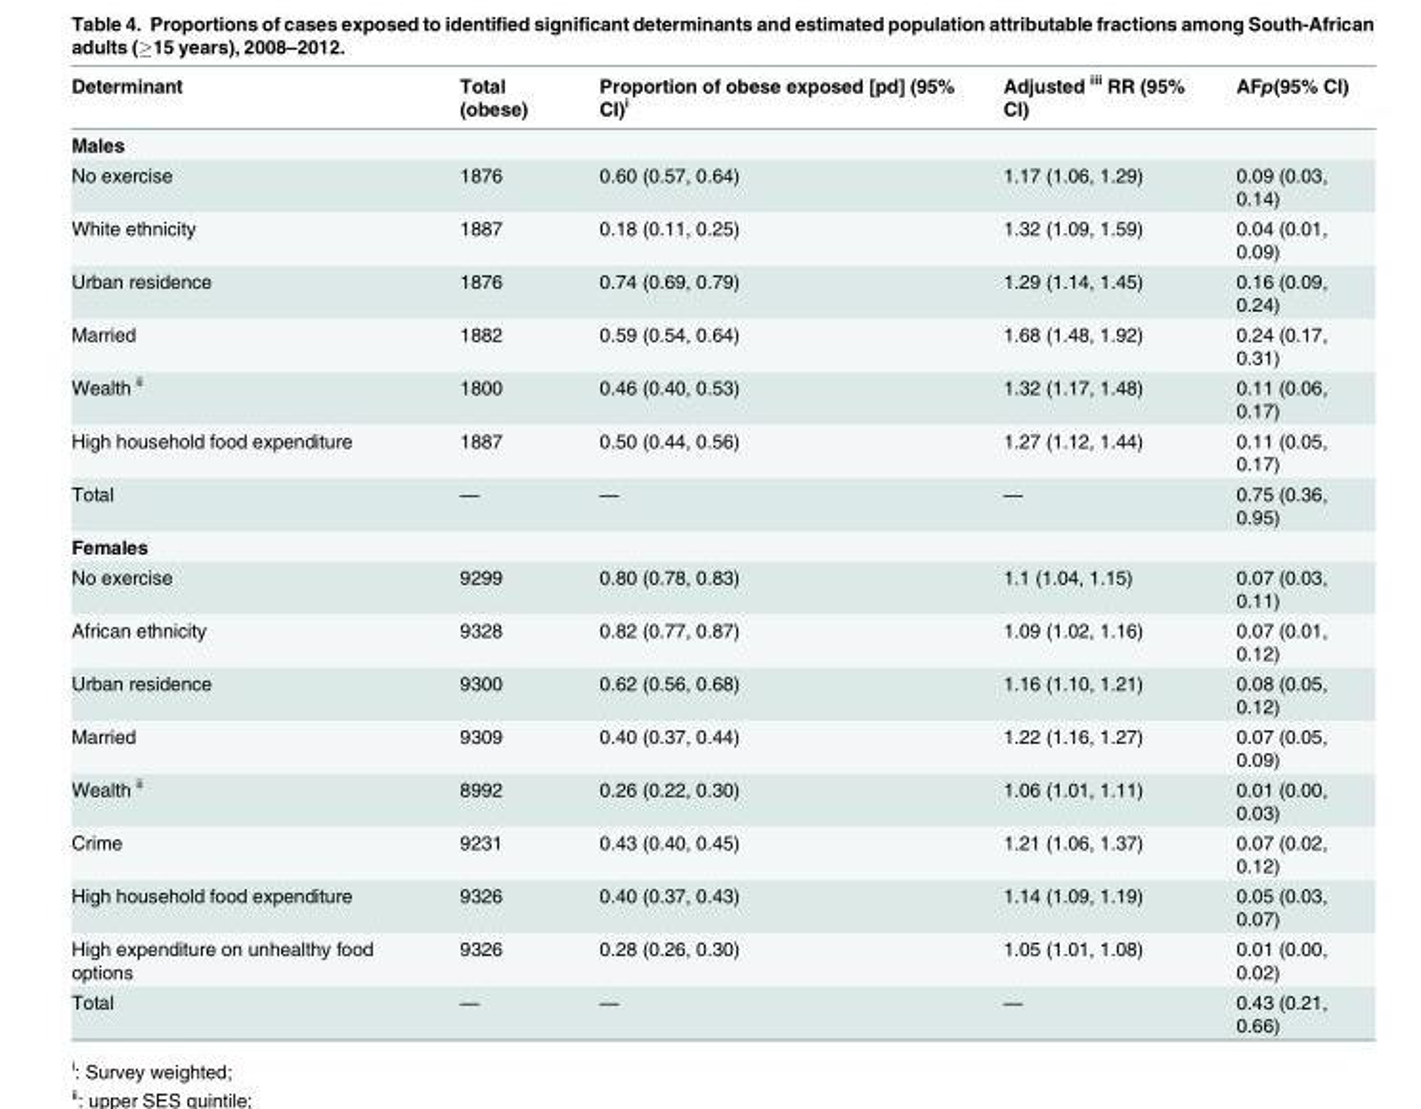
<table><thead><tr><td>Determinant</td><td>Total (obese)</td><td>Proportion of obese exposed [pd] (95% CI)<sup>i</sup></td><td>Adjusted <sup>iii</sup> RR (95% CI)</td><td>AFp(95% CI)</td></tr></thead><tbody><tr><td colspan="5">Males</td></tr><tr><td>No exercise</td><td>1876</td><td>0.60 (0.57, 0.64)</td><td>1.17 (1.06, 1.29)</td><td>0.09 (0.03, 0.14)</td></tr><tr><td>White ethnicity</td><td>1887</td><td>0.18 (0.11, 0.25)</td><td>1.32 (1.09, 1.59)</td><td>0.04 (0.01, 0.09)</td></tr><tr><td>Urban residence</td><td>1876</td><td>0.74 (0.69, 0.79)</td><td>1.29 (1.14, 1.45)</td><td>0.16 (0.09, 0.24)</td></tr><tr><td>Married</td><td>1882</td><td>0.59 (0.54, 0.64)</td><td>1.68 (1.48, 1.92)</td><td>0.24 (0.17, 0.31)</td></tr><tr><td>Wealth <sup>ii</sup></td><td>1800</td><td>0.46 (0.40, 0.53)</td><td>1.32 (1.17, 1.48)</td><td>0.11 (0.06, 0.17)</td></tr><tr><td>High household food expenditure</td><td>1887</td><td>0.50 (0.44, 0.56)</td><td>1.27 (1.12, 1.44)</td><td>0.11 (0.05, 0.17)</td></tr><tr><td>Total</td><td>—</td><td>—</td><td>—</td><td>0.75 (0.36, 0.95)</td></tr><tr><td colspan="5">Females</td></tr><tr><td>No exercise</td><td>9299</td><td>0.80 (0.78, 0.83)</td><td>1.1 (1.04, 1.15)</td><td>0.07 (0.03, 0.11)</td></tr><tr><td>African ethnicity</td><td>9328</td><td>0.82 (0.77, 0.87)</td><td>1.09 (1.02, 1.16)</td><td>0.07 (0.01, 0.12)</td></tr><tr><td>Urban residence</td><td>9300</td><td>0.62 (0.56, 0.68)</td><td>1.16 (1.10, 1.21)</td><td>0.08 (0.05, 0.12)</td></tr><tr><td>Married</td><td>9309</td><td>0.40 (0.37, 0.44)</td><td>1.22 (1.16, 1.27)</td><td>0.07 (0.05, 0.09)</td></tr><tr><td>Wealth <sup>ii</sup></td><td>8992</td><td>0.26 (0.22, 0.30)</td><td>1.06 (1.01, 1.11)</td><td>0.01 (0.00, 0.03)</td></tr><tr><td>Crime</td><td>9231</td><td>0.43 (0.40, 0.45)</td><td>1.21 (1.06, 1.37)</td><td>0.07 (0.02, 0.12)</td></tr><tr><td>High household food expenditure</td><td>9326</td><td>0.40 (0.37, 0.43)</td><td>1.14 (1.09, 1.19)</td><td>0.05 (0.03, 0.07)</td></tr><tr><td>High expenditure on unhealthy food options</td><td>9326</td><td>0.28 (0.26, 0.30)</td><td>1.05 (1.01, 1.08)</td><td>0.01 (0.00, 0.02)</td></tr><tr><td>Total</td><td>—</td><td>—</td><td>—</td><td>0.43 (0.21, 0.66)</td></tr></tbody></table>